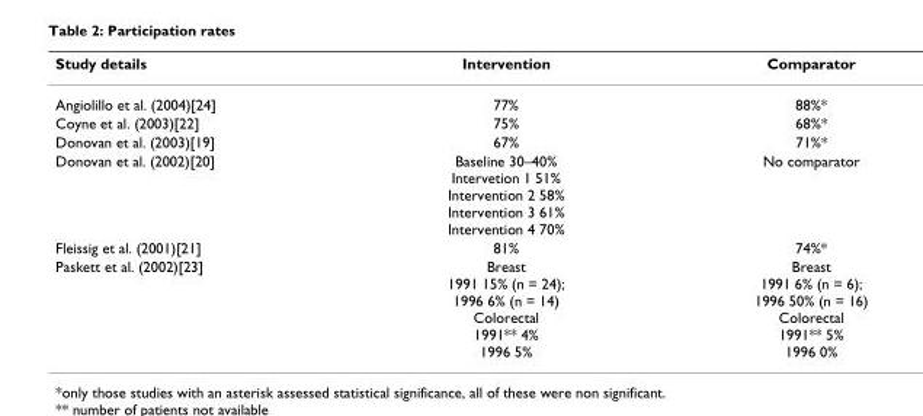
<table><thead><tr><td>Study details</td><td>Intervention</td><td>Comparator</td></tr></thead><tbody><tr><td>Angiolillo et al. (2004)[24]</td><td>77%</td><td>88%*</td></tr><tr><td>Coyne et al. (2003)[22]</td><td>75%</td><td>68%*</td></tr><tr><td>Donovan et al. (2003)[19]</td><td>67%</td><td>71%*</td></tr><tr><td>Donovan et al. (2002)[20]</td><td>Baseline 30–40% Intervetion 1 51% Intervention 2 58% Intervention 3 61% Intervention 4 70%</td><td>No comparator</td></tr><tr><td>Fleissig et al. (2001)[21]</td><td>81%</td><td>74%*</td></tr><tr><td>Paskett et al. (2002)[23]</td><td>Breast 1991 15% (n = 24); 1996 6% (n = 14) Colorectal 1991** 4% 1996 5%</td><td>Breast 1991 6% (n = 6); 1996 50% (n = 16) Colorectal 1991** 5% 1996 0%</td></tr></tbody></table>